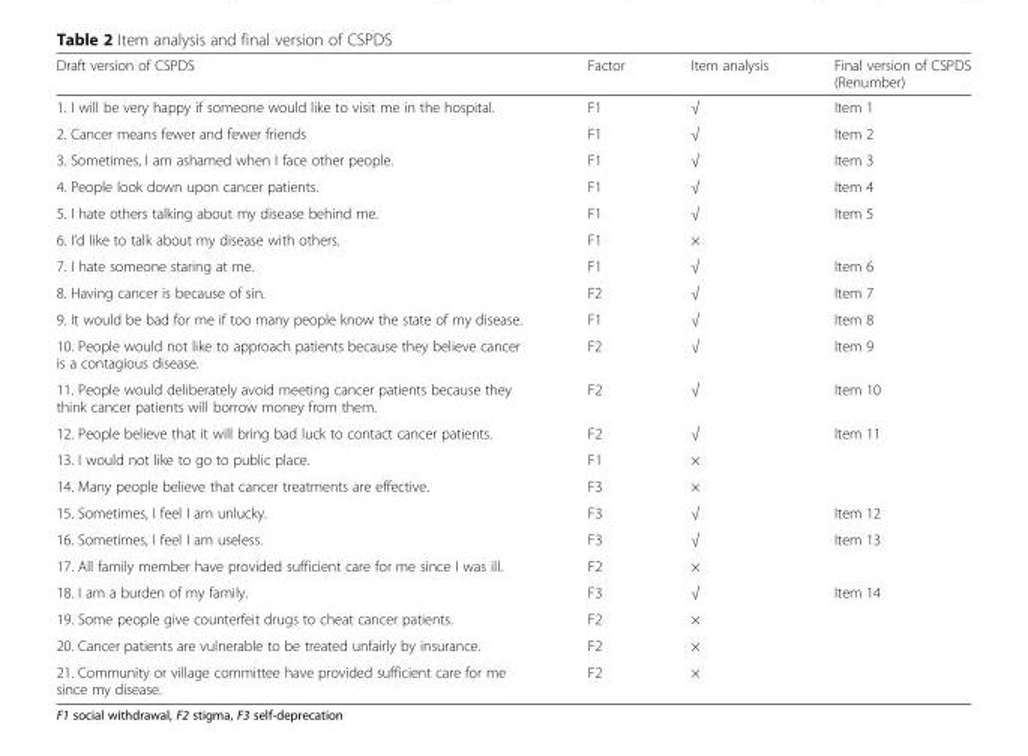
<table><thead><tr><td>Draft version of CSPDS</td><td>Factor</td><td>Item analysis</td><td>Final version of CSPDS (Renumber)</td></tr></thead><tbody><tr><td>1. I will be very happy if someone would like to visit me in the hospital.</td><td>F1</td><td>√</td><td>Item 1</td></tr><tr><td>2. Cancer means fewer and fewer friends</td><td>F1</td><td>√</td><td>Item 2</td></tr><tr><td>3. Sometimes, I am ashamed when I face other people.</td><td>F1</td><td>√</td><td>Item 3</td></tr><tr><td>4. People look down upon cancer patients.</td><td>F1</td><td>√</td><td>Item 4</td></tr><tr><td>5. I hate others talking about my disease behind me.</td><td>F1</td><td>√</td><td>Item 5</td></tr><tr><td>6. I’d like to talk about my disease with others.</td><td>F1</td><td>×</td><td></td></tr><tr><td>7. I hate someone staring at me.</td><td>F1</td><td>√</td><td>Item 6</td></tr><tr><td>8. Having cancer is because of sin.</td><td>F2</td><td>√</td><td>Item 7</td></tr><tr><td>9. It would be bad for me if too many people know the state of my disease.</td><td>F1</td><td>√</td><td>Item 8</td></tr><tr><td>10. People would not like to approach patients because they believe cancer is a contagious disease.</td><td>F2</td><td>√</td><td>Item 9</td></tr><tr><td>11. People would deliberately avoid meeting cancer patients because they think cancer patients will borrow money from them.</td><td>F2</td><td>√</td><td>Item 10</td></tr><tr><td>12. People believe that it will bring bad luck to contact cancer patients.</td><td>F2</td><td>√</td><td>Item 11</td></tr><tr><td>13. I would not like to go to public place.</td><td>F1</td><td>×</td><td></td></tr><tr><td>14. Many people believe that cancer treatments are effective.</td><td>F3</td><td>×</td><td></td></tr><tr><td>15. Sometimes, I feel I am unlucky.</td><td>F3</td><td>√</td><td>Item 12</td></tr><tr><td>16. Sometimes, I feel I am useless.</td><td>F3</td><td>√</td><td>Item 13</td></tr><tr><td>17. All family member have provided sufficient care for me since I was ill.</td><td>F2</td><td>×</td><td></td></tr><tr><td>18. I am a burden of my family.</td><td>F3</td><td>√</td><td>Item 14</td></tr><tr><td>19. Some people give counterfeit drugs to cheat cancer patients.</td><td>F2</td><td>×</td><td></td></tr><tr><td>20. Cancer patients are vulnerable to be treated unfairly by insurance.</td><td>F2</td><td>×</td><td></td></tr><tr><td>21. Community or village committee have provided sufficient care for me since my disease.</td><td>F2</td><td>×</td><td></td></tr></tbody></table>